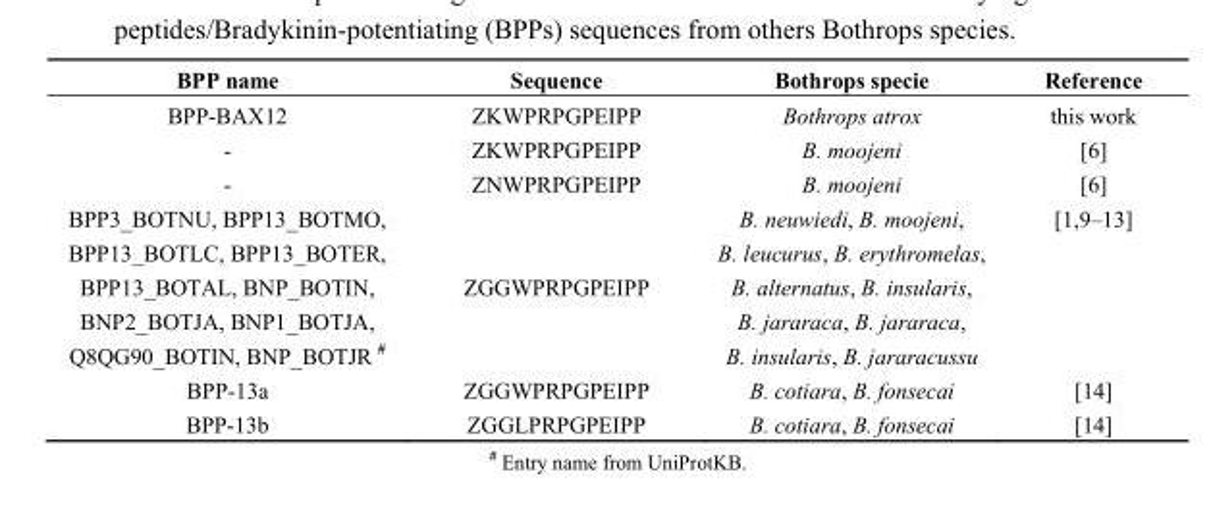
<table><thead><tr><td>BPP name</td><td>Sequence</td><td>Bothrops specie</td><td>Reference</td></tr></thead><tbody><tr><td>BPP-BAX12</td><td>ZKWPRPGPEIPP</td><td>Bothrops atrox</td><td>this work</td></tr><tr><td>-</td><td>ZKWPRPGPEIPP</td><td>B. moojeni</td><td>[6]</td></tr><tr><td>-</td><td>ZNWPRPGPEIPP</td><td>B. moojeni</td><td>[6]</td></tr><tr><td>BPP3_BOTNU, BPP13_BOTMO, BPP13_BOTLC, BPP13_BOTER, BPP13_BOTAL, BNP_BOTIN, BNP2_BOTJA, BNP1_BOTJA, Q8QG90_BOTIN, BNP_BOTJR <sup>#</sup></td><td>ZGGWPRPGPEIPP</td><td>B. neuwiedi, B. moojeni, B. leucurus, B. erythromelas, B. alternatus, B. insularis, B. jararaca, B. jararaca, B. insularis, B. jararacussu</td><td>[1,9–13]</td></tr><tr><td>BPP-13a</td><td>ZGGWPRPGPEIPP</td><td>B. cotiara, B. fonsecai</td><td>[14]</td></tr><tr><td>BPP-13b</td><td>ZGGLPRPGPEIPP</td><td>B. cotiara, B. fonsecai</td><td>[14]</td></tr></tbody></table>